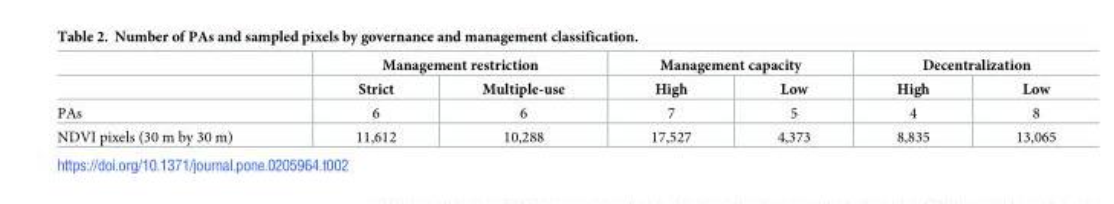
<table><thead><tr><td rowspan="2"></td><td colspan="2">Management restriction</td><td colspan="2">Management capacity</td><td colspan="2">Decentralization</td></tr><tr><td>Strict</td><td>Multiple-use</td><td>High</td><td>Low</td><td>High</td><td>Low</td></tr></thead><tbody><tr><td>PAs</td><td>6</td><td>6</td><td>7</td><td>5</td><td>4</td><td>8</td></tr><tr><td>NDVI pixels (30 m by 30 m)</td><td>11,612</td><td>10,288</td><td>17,527</td><td>4,373</td><td>8,835</td><td>13,065</td></tr></tbody></table>